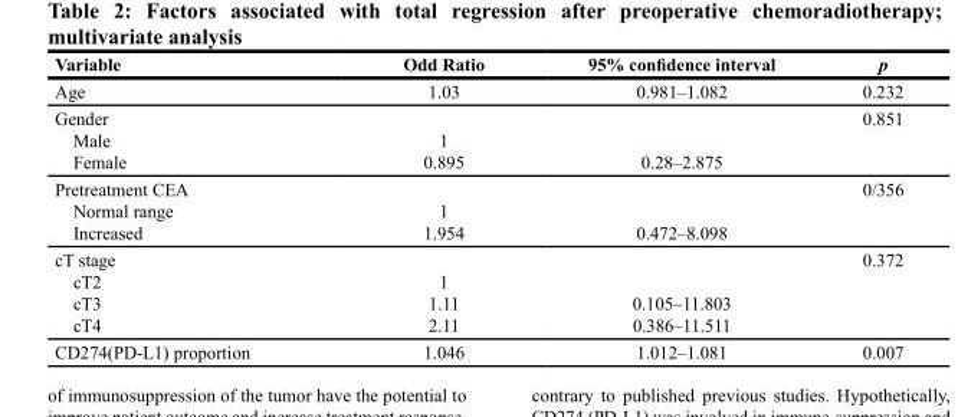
<table><thead><tr><td>Variable</td><td>Odd Ratio</td><td>95% confidence interval</td><td>p</td></tr></thead><tbody><tr><td>Age</td><td>1.03</td><td>0.981–1.082</td><td>0.232</td></tr><tr><td>Gender Male Female</td><td>1 0.895</td><td>0.28–2.875</td><td>0.851</td></tr><tr><td>Pretreatment CEA Normal range Increased</td><td>1 1.954</td><td>0.472–8.098</td><td>0/356</td></tr><tr><td>cT stage cT2 cT3 cT4</td><td>1 1.11 2.11</td><td>0.105–11.803 0.386–11.511</td><td>0.372</td></tr><tr><td>CD274(PD-L1) proportion</td><td>1.046</td><td>1.012–1.081</td><td>0.007</td></tr></tbody></table>